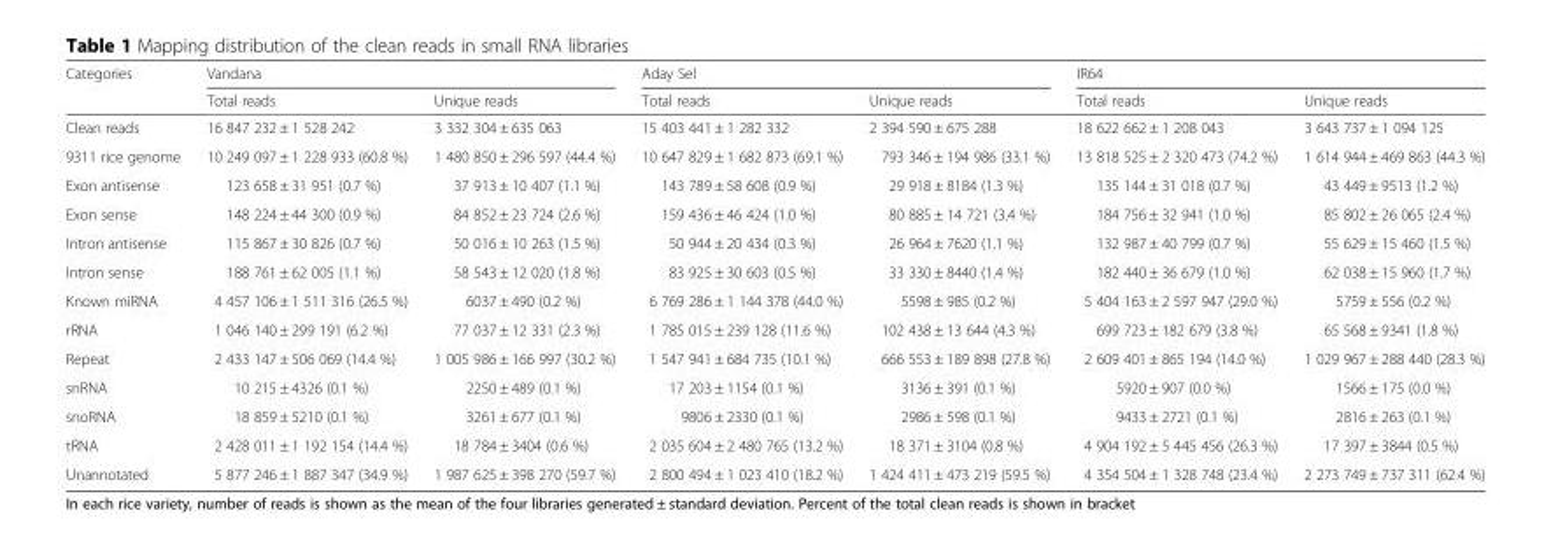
<table><thead><tr><td rowspan="2">Categories</td><td colspan="2">Vandana</td><td colspan="2">Aday Sel</td><td colspan="2">IR64</td></tr><tr><td>Total reads</td><td>Unique reads</td><td>Total reads</td><td>Unique reads</td><td>Total reads</td><td>Unique reads</td></tr></thead><tbody><tr><td>Clean reads</td><td>16 847 232 ± 1 528 242</td><td>3 332 304 ± 635 063</td><td>15 403 441 ± 1 282 332</td><td>2 394 590 ± 675 288</td><td>18 622 662 ± 1 208 043</td><td>3 643 737 ± 1 094 125</td></tr><tr><td>9311 rice genome</td><td>10 249 097 ± 1 228 933 (60.8 %)</td><td>1 480 850 ± 296 597 (44.4 %)</td><td>10 647 829 ± 1 682 873 (69.1 %)</td><td>793 346 ± 194 986 (33.1 %)</td><td>13 818 525 ± 2 320 473 (74.2 %)</td><td>1 614 944 ± 469 863 (44.3 %)</td></tr><tr><td>Exon antisense</td><td>123 658 ± 31 951 (0.7 %)</td><td>37 913 ± 10 407 (1.1 %)</td><td>143 789 ± 58 608 (0.9 %)</td><td>29 918 ± 8184 (1.3 %)</td><td>135 144 ± 31 018 (0.7 %)</td><td>43 449 ± 9513 (1.2 %)</td></tr><tr><td>Exon sense</td><td>148 224 ± 44 300 (0.9 %)</td><td>84 852 ± 23 724 (2.6 %)</td><td>159 436 ± 46 424 (1.0 %)</td><td>80 885 ± 14 721 (3.4 %)</td><td>184 756 ± 32 941 (1.0 %)</td><td>85 802 ± 26 065 (2.4 %)</td></tr><tr><td>Intron antisense</td><td>115 867 ± 30 826 (0.7 %)</td><td>50 016 ± 10 263 (1.5 %)</td><td>50 944 ± 20 434 (0.3 %)</td><td>26 964 ± 7620 (1.1 %)</td><td>132 987 ± 40 799 (0.7 %)</td><td>55 629 ± 15 460 (1.5 %)</td></tr><tr><td>Intron sense</td><td>188 761 ± 62 005 (1.1 %)</td><td>58 543 ± 12 020 (1.8 %)</td><td>83 925 ± 30 603 (0.5 %)</td><td>33 330 ± 8440 (1.4 %)</td><td>182 440 ± 36 679 (1.0 %)</td><td>62 038 ± 15 960 (1.7 %)</td></tr><tr><td>Known miRNA</td><td>4 457 106 ± 1 511 316 (26.5 %)</td><td>6037 ± 490 (0.2 %)</td><td>6 769 286 ± 1 144 378 (44.0 %)</td><td>5598 ± 985 (0.2 %)</td><td>5 404 163 ± 2 597 947 (29.0 %)</td><td>5759 ± 556 (0.2 %)</td></tr><tr><td>rRNA</td><td>1 046 140 ± 299 191 (6.2 %)</td><td>77 037 ± 12 331 (2.3 %)</td><td>1 785 015 ± 239 128 (11.6 %)</td><td>102 438 ± 13 644 (4.3 %)</td><td>699 723 ± 182 679 (3.8 %)</td><td>65 568 ± 9341 (1.8 %)</td></tr><tr><td>Repeat</td><td>2 433 147 ± 506 069 (14.4 %)</td><td>1 005 986 ± 166 997 (30.2 %)</td><td>1 547 941 ± 684 735 (10.1 %)</td><td>666 553 ± 189 898 (27.8 %)</td><td>2 609 401 ± 865 194 (14.0 %)</td><td>1 029 967 ± 288 440 (28.3 %)</td></tr><tr><td>snRNA</td><td>10 215 ± 4326 (0.1 %)</td><td>2250 ± 489 (0.1 %)</td><td>17 203 ± 1154 (0.1 %)</td><td>3136 ± 391 (0.1 %)</td><td>5920 ± 907 (0.0 %)</td><td>1566 ± 175 (0.0 %)</td></tr><tr><td>snoRNA</td><td>18 859 ± 5210 (0.1 %)</td><td>3261 ± 677 (0.1 %)</td><td>9806 ± 2330 (0.1 %)</td><td>2986 ± 598 (0.1 %)</td><td>9433 ± 2721 (0.1 %)</td><td>2816 ± 263 (0.1 %)</td></tr><tr><td>tRNA</td><td>2 428 011 ± 1 192 154 (14.4 %)</td><td>18 784 ± 3404 (0.6 %)</td><td>2 035 604 ± 2 480 765 (13.2 %)</td><td>18 371 ± 3104 (0.8 %)</td><td>4 904 192 ± 5 445 456 (26.3 %)</td><td>17 397 ± 3844 (0.5 %)</td></tr><tr><td>Unannotated</td><td>5 877 246 ± 1 887 347 (34.9 %)</td><td>1 987 625 ± 398 270 (59.7 %)</td><td>2 800 494 ± 1 023 410 (18.2 %)</td><td>1 424 411 ± 473 219 (59.5 %)</td><td>4 354 504 ± 1 328 748 (23.4 %)</td><td>2 273 749 ± 737 311 (62.4 %)</td></tr></tbody></table>